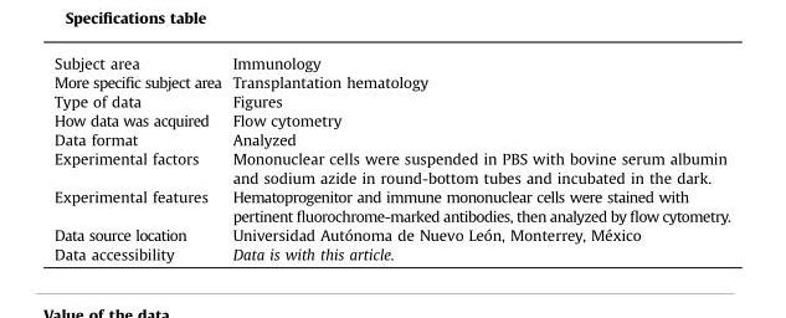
<table><tbody><tr><td>Subject area</td><td>Immunology</td></tr><tr><td>More specific subject area</td><td>Transplantation hematology</td></tr><tr><td>Type of data</td><td>Figures</td></tr><tr><td>How data was acquired</td><td>Flow cytometry</td></tr><tr><td>Data format</td><td>Analyzed</td></tr><tr><td>Experimental factors</td><td>Mononuclear cells were suspended in PBS with bovine serum albumin and sodium azide in round-bottom tubes and incubated in the dark.</td></tr><tr><td>Experimental features</td><td>Hematoprogenitor and immune mononuclear cells were stained with pertinent fluorochrome-marked antibodies, then analyzed by flow cytometry.</td></tr><tr><td>Data source location</td><td>Universidad Autónoma de Nuevo León, Monterrey, México</td></tr><tr><td>Data accessibility</td><td>Data is with this article.</td></tr></tbody></table>